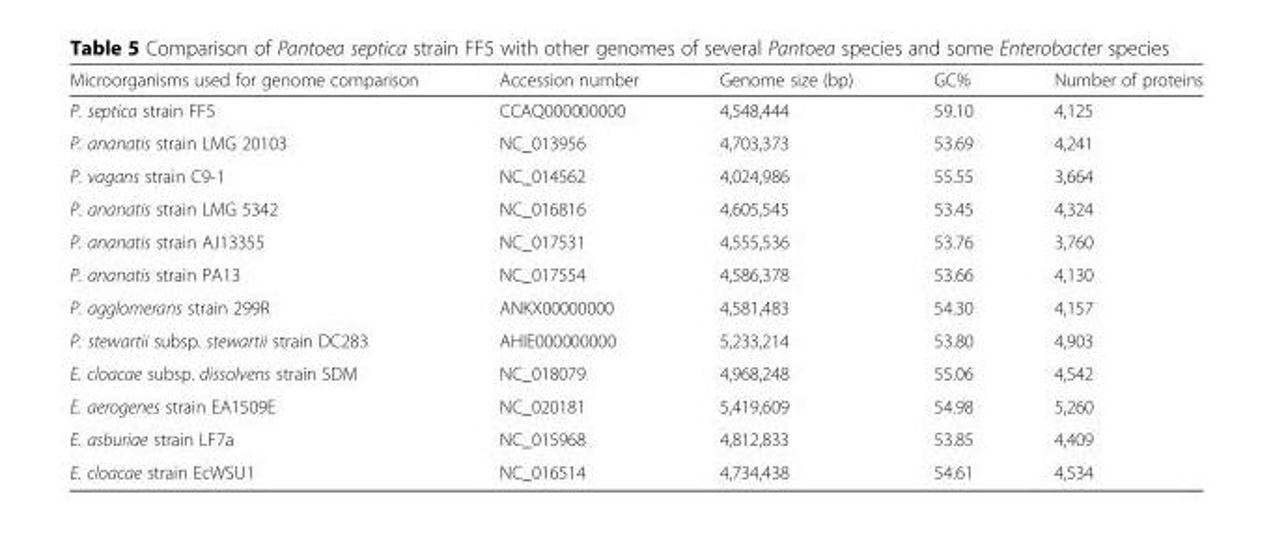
<table><thead><tr><td>Microorganisms used for genome comparison</td><td>Accession number</td><td>Genome size (bp)</td><td>GC%</td><td>Number of proteins</td></tr></thead><tbody><tr><td>P. septica strain FF5</td><td>CCAQ000000000</td><td>4,548,444</td><td>59.10</td><td>4,125</td></tr><tr><td>P. ananatis strain LMG 20103</td><td>NC_013956</td><td>4,703,373</td><td>53.69</td><td>4,241</td></tr><tr><td>P. vagans strain C9-1</td><td>NC_014562</td><td>4,024,986</td><td>55.55</td><td>3,664</td></tr><tr><td>P. ananatis strain LMG 5342</td><td>NC_016816</td><td>4,605,545</td><td>53.45</td><td>4,324</td></tr><tr><td>P. ananatis strain AJ13355</td><td>NC_017531</td><td>4,555,536</td><td>53.76</td><td>3,760</td></tr><tr><td>P. ananatis strain PA13</td><td>NC_017554</td><td>4,586,378</td><td>53.66</td><td>4,130</td></tr><tr><td>P. agglomerans strain 299R</td><td>ANKX00000000</td><td>4,581,483</td><td>54.30</td><td>4,157</td></tr><tr><td>P. stewartii subsp. stewartii strain DC283</td><td>AHIE000000000</td><td>5,233,214</td><td>53.80</td><td>4,903</td></tr><tr><td>E. cloacae subsp. dissolvens strain SDM</td><td>NC_018079</td><td>4,968,248</td><td>55.06</td><td>4,542</td></tr><tr><td>E. aerogenes strain EA1509E</td><td>NC_020181</td><td>5,419,609</td><td>54.98</td><td>5,260</td></tr><tr><td>E. asburiae strain LF7a</td><td>NC_015968</td><td>4,812,833</td><td>53.85</td><td>4,409</td></tr><tr><td>E. cloacae strain EcWSU1</td><td>NC_016514</td><td>4,734,438</td><td>54.61</td><td>4,534</td></tr></tbody></table>